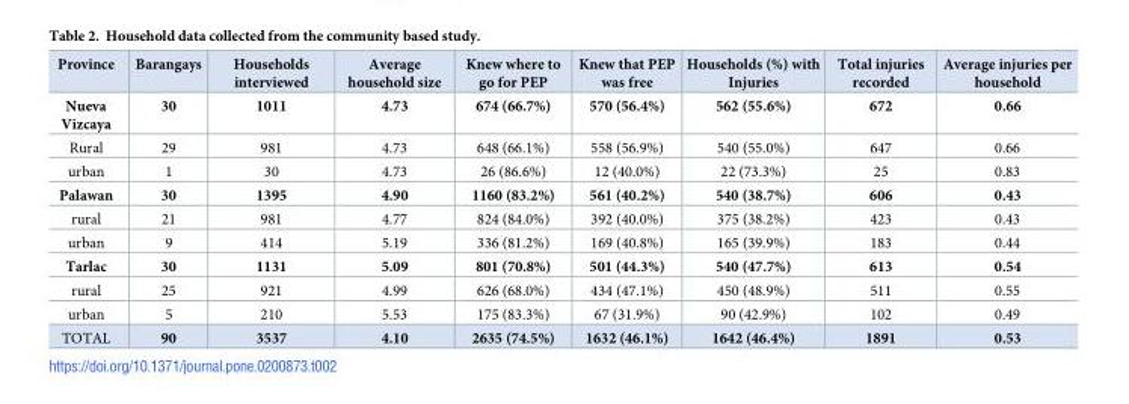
<table><thead><tr><td>Province</td><td>Barangays</td><td>Households interviewed</td><td>Average household size</td><td>Knew where to go for PEP</td><td>Knew that PEP was free</td><td>Households (%) with Injuries</td><td>Total injuries recorded</td><td>Average injuries per household</td></tr></thead><tbody><tr><td>Nueva Vizcaya</td><td>30</td><td>1011</td><td>4.73</td><td>674 (66.7%)</td><td>570 (56.4%)</td><td>562 (55.6%)</td><td>672</td><td>0.66</td></tr><tr><td>Rural</td><td>29</td><td>981</td><td>4.73</td><td>648 (66.1%)</td><td>558 (56.9%)</td><td>540 (55.0%)</td><td>647</td><td>0.66</td></tr><tr><td>urban</td><td>1</td><td>30</td><td>4.73</td><td>26 (86.6%)</td><td>12 (40.0%)</td><td>22 (73.3%)</td><td>25</td><td>0.83</td></tr><tr><td>Palawan</td><td>30</td><td>1395</td><td>4.90</td><td>1160 (83.2%)</td><td>561 (40.2%)</td><td>540 (38.7%)</td><td>606</td><td>0.43</td></tr><tr><td>rural</td><td>21</td><td>981</td><td>4.77</td><td>824 (84.0%)</td><td>392 (40.0%)</td><td>375 (38.2%)</td><td>423</td><td>0.43</td></tr><tr><td>urban</td><td>9</td><td>414</td><td>5.19</td><td>336 (81.2%)</td><td>169 (40.8%)</td><td>165 (39.9%)</td><td>183</td><td>0.44</td></tr><tr><td>Tarlac</td><td>30</td><td>1131</td><td>5.09</td><td>801 (70.8%)</td><td>501 (44.3%)</td><td>540 (47.7%)</td><td>613</td><td>0.54</td></tr><tr><td>rural</td><td>25</td><td>921</td><td>4.99</td><td>626 (68.0%)</td><td>434 (47.1%)</td><td>450 (48.9%)</td><td>511</td><td>0.55</td></tr><tr><td>urban</td><td>5</td><td>210</td><td>5.53</td><td>175 (83.3%)</td><td>67 (31.9%)</td><td>90 (42.9%)</td><td>102</td><td>0.49</td></tr><tr><td>TOTAL</td><td>90</td><td>3537</td><td>4.10</td><td>2635 (74.5%)</td><td>1632 (46.1%)</td><td>1642 (46.4%)</td><td>1891</td><td>0.53</td></tr></tbody></table>